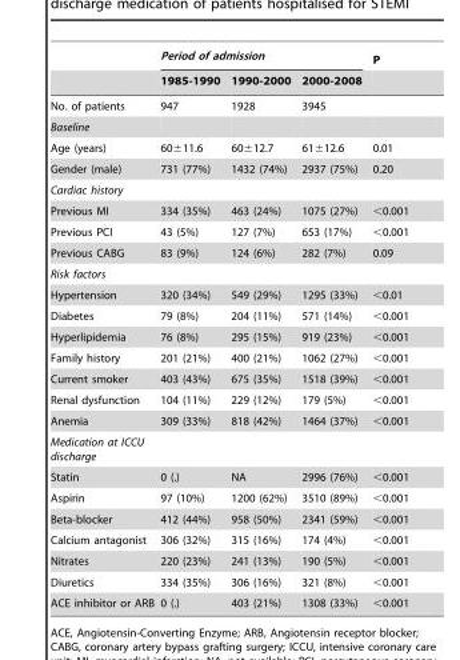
<table><thead><tr><td rowspan="2"></td><td colspan="3">Period of admission</td><td rowspan="2">P</td></tr><tr><td>1985-1990</td><td>1990-2000</td><td>2000-2008</td></tr></thead><tbody><tr><td>No. of patients</td><td>947</td><td>1928</td><td>3945</td><td></td></tr><tr><td colspan="5">Baseline</td></tr><tr><td>Age (years)</td><td>60±11.6</td><td>60±12.7</td><td>61±12.6</td><td>0.01</td></tr><tr><td>Gender (male)</td><td>731 (77%)</td><td>1432 (74%)</td><td>2937 (75%)</td><td>0.20</td></tr><tr><td colspan="5">Cardiac history</td></tr><tr><td>Previous MI</td><td>334 (35%)</td><td>463 (24%)</td><td>1075 (27%)</td><td>&lt;0.001</td></tr><tr><td>Previous PCI</td><td>43 (5%)</td><td>127 (7%)</td><td>653 (17%)</td><td>&lt;0.001</td></tr><tr><td>Previous CABG</td><td>83 (9%)</td><td>124 (6%)</td><td>282 (7%)</td><td>0.09</td></tr><tr><td colspan="5">Risk factors</td></tr><tr><td>Hypertension</td><td>320 (34%)</td><td>549 (29%)</td><td>1295 (33%)</td><td>&lt;0.01</td></tr><tr><td>Diabetes</td><td>79 (8%)</td><td>204 (11%)</td><td>571 (14%)</td><td>&lt;0.001</td></tr><tr><td>Hyperlipidemia</td><td>76 (8%)</td><td>295 (15%)</td><td>919 (23%)</td><td>&lt;0.001</td></tr><tr><td>Family history</td><td>201 (21%)</td><td>400 (21%)</td><td>1062 (27%)</td><td>&lt;0.001</td></tr><tr><td>Current smoker</td><td>403 (43%)</td><td>675 (35%)</td><td>1518 (39%)</td><td>&lt;0.001</td></tr><tr><td>Renal dysfunction</td><td>104 (11%)</td><td>229 (12%)</td><td>179 (5%)</td><td>&lt;0.001</td></tr><tr><td>Anemia</td><td>309 (33%)</td><td>818 (42%)</td><td>1464 (37%)</td><td>&lt;0.001</td></tr><tr><td colspan="5">Medication at ICCU discharge</td></tr><tr><td>Statin</td><td>0 (.)</td><td>NA</td><td>2996 (76%)</td><td>&lt;0.001</td></tr><tr><td>Aspirin</td><td>97 (10%)</td><td>1200 (62%)</td><td>3510 (89%)</td><td>&lt;0.001</td></tr><tr><td>Beta-blocker</td><td>412 (44%)</td><td>958 (50%)</td><td>2341 (59%)</td><td>&lt;0.001</td></tr><tr><td>Calcium antagonist</td><td>306 (32%)</td><td>315 (16%)</td><td>174 (4%)</td><td>&lt;0.001</td></tr><tr><td>Nitrates</td><td>220 (23%)</td><td>241 (13%)</td><td>190 (5%)</td><td>&lt;0.001</td></tr><tr><td>Diuretics</td><td>334 (35%)</td><td>306 (16%)</td><td>321 (8%)</td><td>&lt;0.001</td></tr><tr><td>ACE inhibitor or ARB</td><td>0 (.)</td><td>403 (21%)</td><td>1308 (33%)</td><td>&lt;0.001</td></tr></tbody></table>